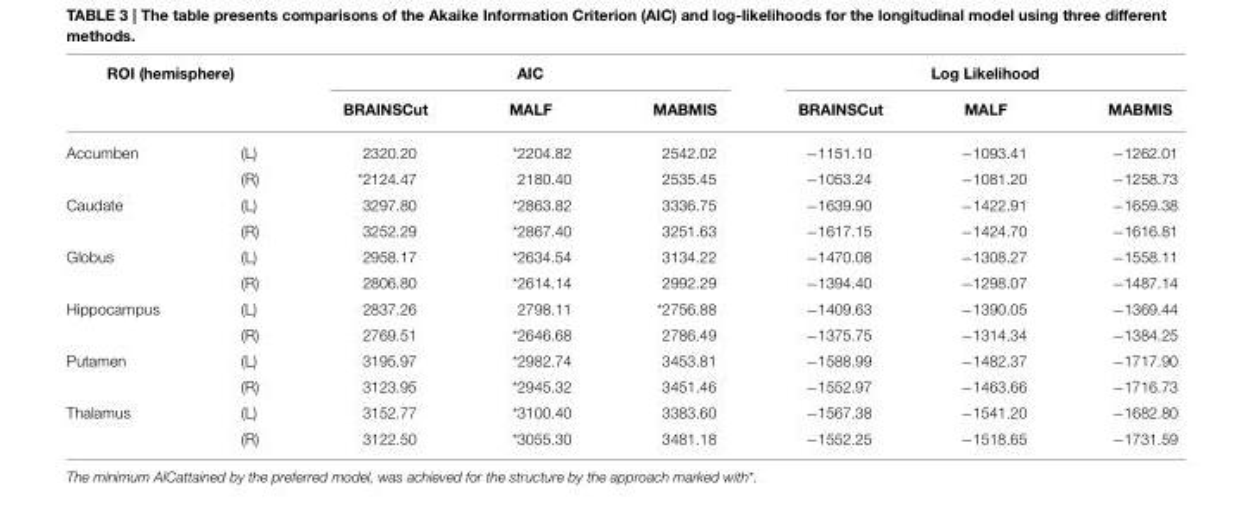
<table><thead><tr><td colspan="2">ROI (hemisphere)</td><td colspan="3">AIC</td><td colspan="3">Log Likelihood</td></tr><tr><td></td><td></td><td>BRAINSCut</td><td>MALF</td><td>MABMIS</td><td>BRAINSCut</td><td>MALF</td><td>MABMIS</td></tr></thead><tbody><tr><td rowspan="2">Accumben</td><td>(L)</td><td>2320.20</td><td>*2204.82</td><td>2542.02</td><td>−1151.10</td><td>−1093.41</td><td>−1262.01</td></tr><tr><td>(R)</td><td>*2124.47</td><td>2180.40</td><td>2535.45</td><td>−1053.24</td><td>−1081.20</td><td>−1258.73</td></tr><tr><td rowspan="2">Caudate</td><td>(L)</td><td>3297.80</td><td>*2863.82</td><td>3336.75</td><td>−1639.90</td><td>−1422.91</td><td>−1659.38</td></tr><tr><td>(R)</td><td>3252.29</td><td>*2867.40</td><td>3251.63</td><td>−1617.15</td><td>−1424.70</td><td>−1616.81</td></tr><tr><td rowspan="2">Globus</td><td>(L)</td><td>2958.17</td><td>*2634.54</td><td>3134.22</td><td>−1470.08</td><td>−1308.27</td><td>−1558.11</td></tr><tr><td>(R)</td><td>2806.80</td><td>*2614.14</td><td>2992.29</td><td>−1394.40</td><td>−1298.07</td><td>−1487.14</td></tr><tr><td rowspan="2">Hippocampus</td><td>(L)</td><td>2837.26</td><td>2798.11</td><td>*2756.88</td><td>−1409.63</td><td>−1390.05</td><td>−1369.44</td></tr><tr><td>(R)</td><td>2769.51</td><td>*2646.68</td><td>2786.49</td><td>−1375.75</td><td>−1314.34</td><td>−1384.25</td></tr><tr><td rowspan="2">Putamen</td><td>(L)</td><td>3195.97</td><td>*2982.74</td><td>3453.81</td><td>−1588.99</td><td>−1482.37</td><td>−1717.90</td></tr><tr><td>(R)</td><td>3123.95</td><td>*2945.32</td><td>3451.46</td><td>−1552.97</td><td>−1463.66</td><td>−1716.73</td></tr><tr><td rowspan="2">Thalamus</td><td>(L)</td><td>3152.77</td><td>*3100.40</td><td>3383.60</td><td>−1567.38</td><td>−1541.20</td><td>−1682.80</td></tr><tr><td>(R)</td><td>3122.50</td><td>*3055.30</td><td>3481.18</td><td>−1552.25</td><td>−1518.65</td><td>−1731.59</td></tr></tbody></table>